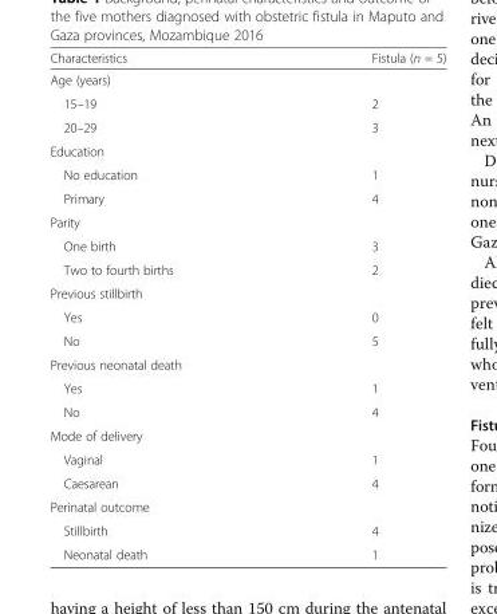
<table><thead><tr><td>Characteristics</td><td>Fistula (n = 5)</td></tr></thead><tbody><tr><td colspan="2">Age (years)</td></tr><tr><td>15–19</td><td>2</td></tr><tr><td>20–29</td><td>3</td></tr><tr><td colspan="2">Education</td></tr><tr><td>No education</td><td>1</td></tr><tr><td>Primary</td><td>4</td></tr><tr><td colspan="2">Parity</td></tr><tr><td>One birth</td><td>3</td></tr><tr><td>Two to fourth births</td><td>2</td></tr><tr><td colspan="2">Previous stillbirth</td></tr><tr><td>Yes</td><td>0</td></tr><tr><td>No</td><td>5</td></tr><tr><td colspan="2">Previous neonatal death</td></tr><tr><td>Yes</td><td>1</td></tr><tr><td>No</td><td>4</td></tr><tr><td colspan="2">Mode of delivery</td></tr><tr><td>Vaginal</td><td>1</td></tr><tr><td>Caesarean</td><td>4</td></tr><tr><td colspan="2">Perinatal outcome</td></tr><tr><td>Stillbirth</td><td>4</td></tr><tr><td>Neonatal death</td><td>1</td></tr></tbody></table>